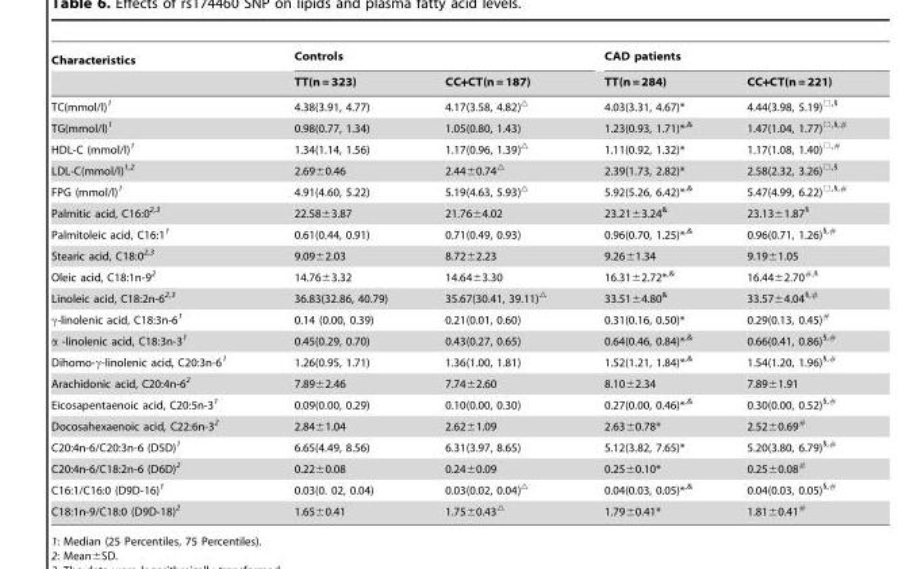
<table><thead><tr><td rowspan="2">Characteristics</td><td colspan="2">Controls</td><td colspan="2">CAD patients</td></tr><tr><td>TT(n = 323)</td><td>CC+CT(n = 187)</td><td>TT(n = 284)</td><td>CC+CT(n = 221)</td></tr></thead><tbody><tr><td>TC(mmol/l)<sup>1</sup></td><td>4.38(3.91, 4.77)</td><td>4.17(3.58, 4.82)<sup>△</sup></td><td>4.03(3.31, 4.67)*</td><td>4.44(3.98, 5.19)<sup>□,§</sup></td></tr><tr><td>TG(mmol/l)<sup>1</sup></td><td>0.98(0.77, 1.34)</td><td>1.05(0.80, 1.43)</td><td>1.23(0.93, 1.71)*<sup>,&amp;</sup></td><td>1.47(1.04, 1.77)<sup>□,§,#</sup></td></tr><tr><td>HDL-C (mmol/l)<sup>1</sup></td><td>1.34(1.14, 1.56)</td><td>1.17(0.96, 1.39)<sup>△</sup></td><td>1.11(0.92, 1.32)*</td><td>1.17(1.08, 1.40)<sup>□,#</sup></td></tr><tr><td>LDL-C(mmol/l)<sup>1,2</sup></td><td>2.69±0.46</td><td>2.44±0.74<sup>△</sup></td><td>2.39(1.73, 2.82)*</td><td>2.58(2.32, 3.26)<sup>□,§</sup></td></tr><tr><td>FPG (mmol/l)<sup>1</sup></td><td>4.91(4.60, 5.22)</td><td>5.19(4.63, 5.93)<sup>△</sup></td><td>5.92(5.26, 6.42)*<sup>,&amp;</sup></td><td>5.47(4.99, 6.22)<sup>□,§,#</sup></td></tr><tr><td>Palmitic acid, C16:0<sup>2,3</sup></td><td>22.58±3.87</td><td>21.76±4.02</td><td>23.21±3.24<sup>&amp;</sup></td><td>23.13±1.87<sup>§</sup></td></tr><tr><td>Palmitoleic acid, C16:1<sup>1</sup></td><td>0.61(0.44, 0.91)</td><td>0.71(0.49, 0.93)</td><td>0.96(0.70, 1.25)*<sup>,&amp;</sup></td><td>0.96(0.71, 1.26)<sup>§,#</sup></td></tr><tr><td>Stearic acid, C18:0<sup>2,3</sup></td><td>9.09±2.03</td><td>8.72±2.23</td><td>9.26±1.34</td><td>9.19±1.05</td></tr><tr><td>Oleic acid, C18:1n-9<sup>2</sup></td><td>14.76±3.32</td><td>14.64±3.30</td><td>16.31±2.72*<sup>,&amp;</sup></td><td>16.44±2.70<sup>#,§</sup></td></tr><tr><td>Linoleic acid, C18:2n-6<sup>2,3</sup></td><td>36.83(32.86, 40.79)</td><td>35.67(30.41, 39.11)<sup>△</sup></td><td>33.51±4.80<sup>&amp;</sup></td><td>33.57±4.04<sup>§,#</sup></td></tr><tr><td>γ-linolenic acid, C18:3n-6<sup>1</sup></td><td>0.14 (0.00, 0.39)</td><td>0.21(0.01, 0.60)</td><td>0.31(0.16, 0.50)*</td><td>0.29(0.13, 0.45)<sup>#</sup></td></tr><tr><td>α -linolenic acid, C18:3n-3<sup>1</sup></td><td>0.45(0.29, 0.70)</td><td>0.43(0.27, 0.65)</td><td>0.64(0.46, 0.84)*<sup>,&amp;</sup></td><td>0.66(0.41, 0.86)<sup>§,#</sup></td></tr><tr><td>Dihomo-γ-linolenic acid, C20:3n-6<sup>1</sup></td><td>1.26(0.95, 1.71)</td><td>1.36(1.00, 1.81)</td><td>1.52(1.21, 1.84)*<sup>,&amp;</sup></td><td>1.54(1.20, 1.96)<sup>§,#</sup></td></tr><tr><td>Arachidonic acid, C20:4n-6<sup>2</sup></td><td>7.89±2.46</td><td>7.74±2.60</td><td>8.10±2.34</td><td>7.89±1.91</td></tr><tr><td>Eicosapentaenoic acid, C20:5n-3<sup>1</sup></td><td>0.09(0.00, 0.29)</td><td>0.10(0.00, 0.30)</td><td>0.27(0.00, 0.46)*<sup>,&amp;</sup></td><td>0.30(0.00, 0.52)<sup>§,#</sup></td></tr><tr><td>Docosahexaenoic acid, C22:6n-3<sup>2</sup></td><td>2.84±1.04</td><td>2.62±1.09</td><td>2.63±0.78*</td><td>2.52±0.69<sup>#</sup></td></tr><tr><td>C20:4n-6/C20:3n-6 (D5D)<sup>1</sup></td><td>6.65(4.49, 8.56)</td><td>6.31(3.97, 8.65)</td><td>5.12(3.82, 7.65)*</td><td>5.20(3.80, 6.79)<sup>§,#</sup></td></tr><tr><td>C20:4n-6/C18:2n-6 (D6D)<sup>2</sup></td><td>0.22±0.08</td><td>0.24±0.09</td><td>0.25±0.10*</td><td>0.25±0.08<sup>#</sup></td></tr><tr><td>C16:1/C16:0 (D9D-16)<sup>1</sup></td><td>0.03(0. 02, 0.04)</td><td>0.03(0.02, 0.04)<sup>△</sup></td><td>0.04(0.03, 0.05)*<sup>,&amp;</sup></td><td>0.04(0.03, 0.05)<sup>§,#</sup></td></tr><tr><td>C18:1n-9/C18:0 (D9D-18)<sup>2</sup></td><td>1.65±0.41</td><td>1.75±0.43<sup>△</sup></td><td>1.79±0.41*</td><td>1.81±0.41<sup>#</sup></td></tr></tbody></table>